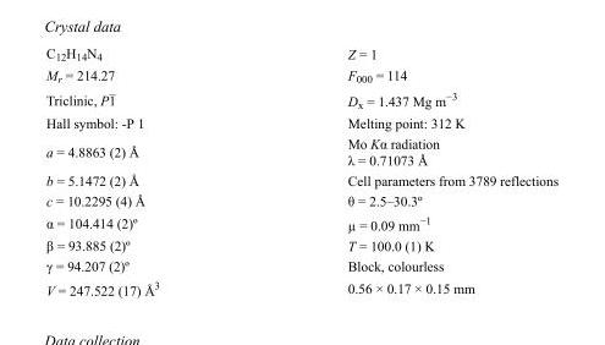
<table><tbody><tr><td>C<sub>12</sub>H<sub>14</sub>N<sub>4</sub></td><td>Z = 1</td></tr><tr><td>M<sub>r</sub> = 214.27</td><td>F<sub>000</sub> = 114</td></tr><tr><td>Triclinic, P1</td><td>D<sub>x</sub> = 1.437 Mg m<sup>−3</sup></td></tr><tr><td>Hall symbol: -P 1</td><td>Melting point: 312 K</td></tr><tr><td>a = 4.8863 (2) Å</td><td>Mo Kα radiation λ = 0.71073 Å</td></tr><tr><td>b = 5.1472 (2) Å</td><td>Cell parameters from 3789 reflections</td></tr><tr><td>c = 10.2295 (4) Å</td><td>θ = 2.5–30.3º</td></tr><tr><td>α = 104.414 (2)º</td><td>µ = 0.09 mm<sup>−1</sup></td></tr><tr><td>β = 93.885 (2)º</td><td>T = 100.0 (1) K</td></tr><tr><td>γ = 94.207 (2)º</td><td>Block, colourless</td></tr><tr><td>V = 247.522 (17) Å<sup>3</sup></td><td>0.56 × 0.17 × 0.15 mm</td></tr></tbody></table>